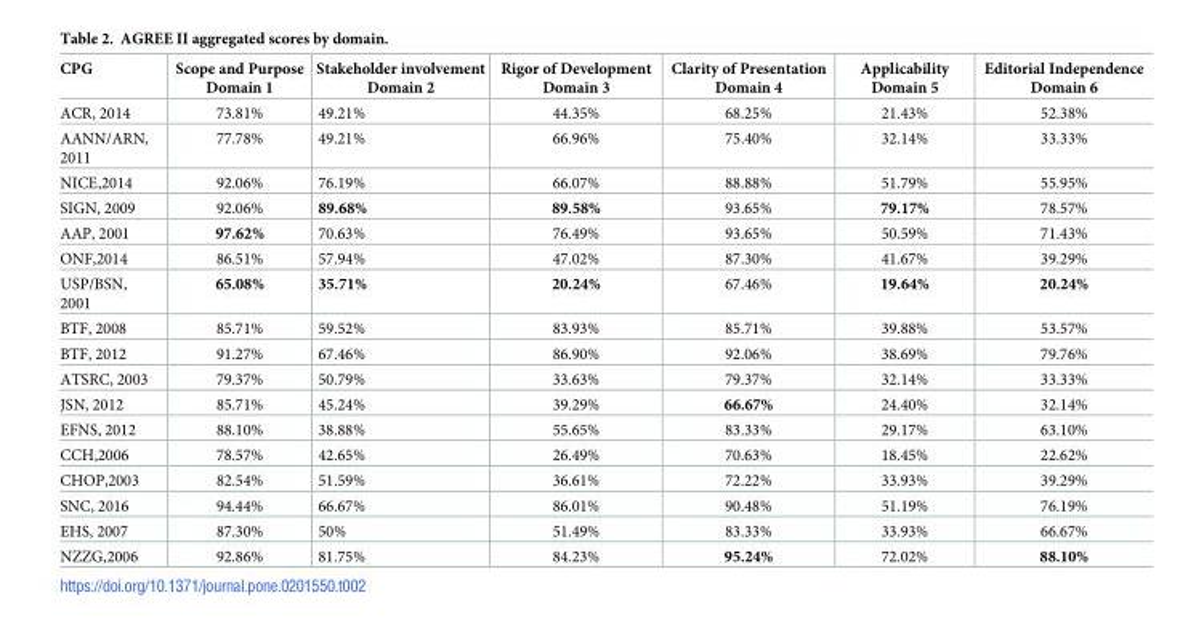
<table><thead><tr><td>CPG</td><td>Scope and Purpose Domain 1</td><td>Stakeholder involvement Domain 2</td><td>Rigor of Development Domain 3</td><td>Clarity of Presentation Domain 4</td><td>Applicability Domain 5</td><td>Editorial Independence Domain 6</td></tr></thead><tbody><tr><td>ACR, 2014</td><td>73.81%</td><td>49.21%</td><td>44.35%</td><td>68.25%</td><td>21.43%</td><td>52.38%</td></tr><tr><td>AANN/ARN, 2011</td><td>77.78%</td><td>49.21%</td><td>66.96%</td><td>75.40%</td><td>32.14%</td><td>33.33%</td></tr><tr><td>NICE,2014</td><td>92.06%</td><td>76.19%</td><td>66.07%</td><td>88.88%</td><td>51.79%</td><td>55.95%</td></tr><tr><td>SIGN, 2009</td><td>92.06%</td><td>89.68%</td><td>89.58%</td><td>93.65%</td><td>79.17%</td><td>78.57%</td></tr><tr><td>AAP, 2001</td><td>97.62%</td><td>70.63%</td><td>76.49%</td><td>93.65%</td><td>50.59%</td><td>71.43%</td></tr><tr><td>ONF,2014</td><td>86.51%</td><td>57.94%</td><td>47.02%</td><td>87.30%</td><td>41.67%</td><td>39.29%</td></tr><tr><td>USP/BSN, 2001</td><td>65.08%</td><td>35.71%</td><td>20.24%</td><td>67.46%</td><td>19.64%</td><td>20.24%</td></tr><tr><td>BTF, 2008</td><td>85.71%</td><td>59.52%</td><td>83.93%</td><td>85.71%</td><td>39.88%</td><td>53.57%</td></tr><tr><td>BTF, 2012</td><td>91.27%</td><td>67.46%</td><td>86.90%</td><td>92.06%</td><td>38.69%</td><td>79.76%</td></tr><tr><td>ATSRC, 2003</td><td>79.37%</td><td>50.79%</td><td>33.63%</td><td>79.37%</td><td>32.14%</td><td>33.33%</td></tr><tr><td>JSN, 2012</td><td>85.71%</td><td>45.24%</td><td>39.29%</td><td>66.67%</td><td>24.40%</td><td>32.14%</td></tr><tr><td>EFNS, 2012</td><td>88.10%</td><td>38.88%</td><td>55.65%</td><td>83.33%</td><td>29.17%</td><td>63.10%</td></tr><tr><td>CCH,2006</td><td>78.57%</td><td>42.65%</td><td>26.49%</td><td>70.63%</td><td>18.45%</td><td>22.62%</td></tr><tr><td>CHOP,2003</td><td>82.54%</td><td>51.59%</td><td>36.61%</td><td>72.22%</td><td>33.93%</td><td>39.29%</td></tr><tr><td>SNC, 2016</td><td>94.44%</td><td>66.67%</td><td>86.01%</td><td>90.48%</td><td>51.19%</td><td>76.19%</td></tr><tr><td>EHS, 2007</td><td>87.30%</td><td>50%</td><td>51.49%</td><td>83.33%</td><td>33.93%</td><td>66.67%</td></tr><tr><td>NZZG,2006</td><td>92.86%</td><td>81.75%</td><td>84.23%</td><td>95.24%</td><td>72.02%</td><td>88.10%</td></tr></tbody></table>